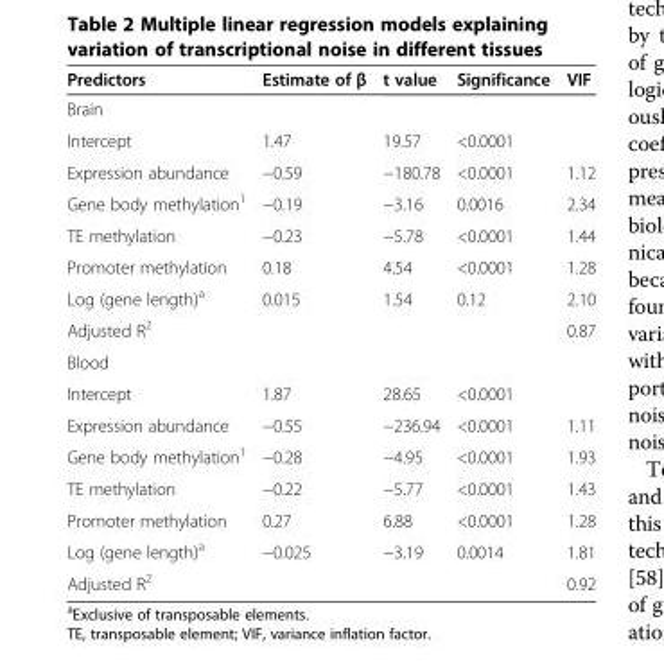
<table><thead><tr><td>Predictors</td><td>Estimate of β</td><td>t value</td><td>Significance</td><td>VIF</td></tr></thead><tbody><tr><td colspan="5">Brain</td></tr><tr><td>Intercept</td><td>1.47</td><td>19.57</td><td>&lt;0.0001</td><td></td></tr><tr><td>Expression abundance</td><td>−0.59</td><td>−180.78</td><td>&lt;0.0001</td><td>1.12</td></tr><tr><td>Gene body methylation<sup>1</sup></td><td>−0.19</td><td>−3.16</td><td>0.0016</td><td>2.34</td></tr><tr><td>TE methylation</td><td>−0.23</td><td>−5.78</td><td>&lt;0.0001</td><td>1.44</td></tr><tr><td>Promoter methylation</td><td>0.18</td><td>4.54</td><td>&lt;0.0001</td><td>1.28</td></tr><tr><td>Log (gene length)<sup>a</sup></td><td>0.015</td><td>1.54</td><td>0.12</td><td>2.10</td></tr><tr><td>Adjusted R<sup>2</sup></td><td></td><td></td><td></td><td>0.87</td></tr><tr><td colspan="5">Blood</td></tr><tr><td>Intercept</td><td>1.87</td><td>28.65</td><td>&lt;0.0001</td><td></td></tr><tr><td>Expression abundance</td><td>−0.55</td><td>−236.94</td><td>&lt;0.0001</td><td>1.11</td></tr><tr><td>Gene body methylation<sup>1</sup></td><td>−0.28</td><td>−4.95</td><td>&lt;0.0001</td><td>1.93</td></tr><tr><td>TE methylation</td><td>−0.22</td><td>−5.77</td><td>&lt;0.0001</td><td>1.43</td></tr><tr><td>Promoter methylation</td><td>0.27</td><td>6.88</td><td>&lt;0.0001</td><td>1.28</td></tr><tr><td>Log (gene length)<sup>a</sup></td><td>−0.025</td><td>−3.19</td><td>0.0014</td><td>1.81</td></tr><tr><td>Adjusted R<sup>2</sup></td><td></td><td></td><td></td><td>0.92</td></tr></tbody></table>